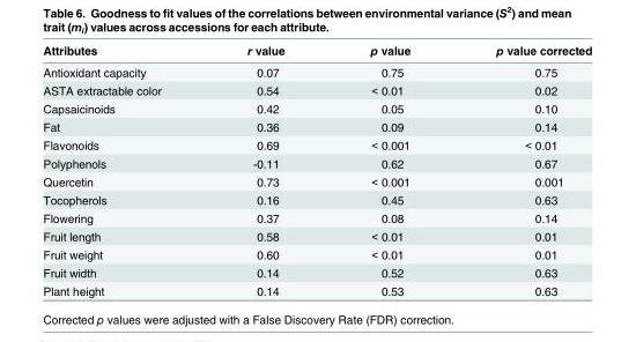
<table><thead><tr><td>Attributes</td><td>r value</td><td>p value</td><td>p value corrected</td></tr></thead><tbody><tr><td>Antioxidant capacity</td><td>0.07</td><td>0.75</td><td>0.75</td></tr><tr><td>ASTA extractable color</td><td>0.54</td><td>&lt; 0.01</td><td>0.02</td></tr><tr><td>Capsaicinoids</td><td>0.42</td><td>0.05</td><td>0.10</td></tr><tr><td>Fat</td><td>0.36</td><td>0.09</td><td>0.14</td></tr><tr><td>Flavonoids</td><td>0.69</td><td>&lt; 0.001</td><td>&lt; 0.01</td></tr><tr><td>Polyphenols</td><td>-0.11</td><td>0.62</td><td>0.67</td></tr><tr><td>Quercetin</td><td>0.73</td><td>&lt; 0.001</td><td>0.001</td></tr><tr><td>Tocopherols</td><td>0.16</td><td>0.45</td><td>0.63</td></tr><tr><td>Flowering</td><td>0.37</td><td>0.08</td><td>0.14</td></tr><tr><td>Fruit length</td><td>0.58</td><td>&lt; 0.01</td><td>0.01</td></tr><tr><td>Fruit weight</td><td>0.60</td><td>&lt; 0.01</td><td>0.01</td></tr><tr><td>Fruit width</td><td>0.14</td><td>0.52</td><td>0.63</td></tr><tr><td>Plant height</td><td>0.14</td><td>0.53</td><td>0.63</td></tr></tbody></table>